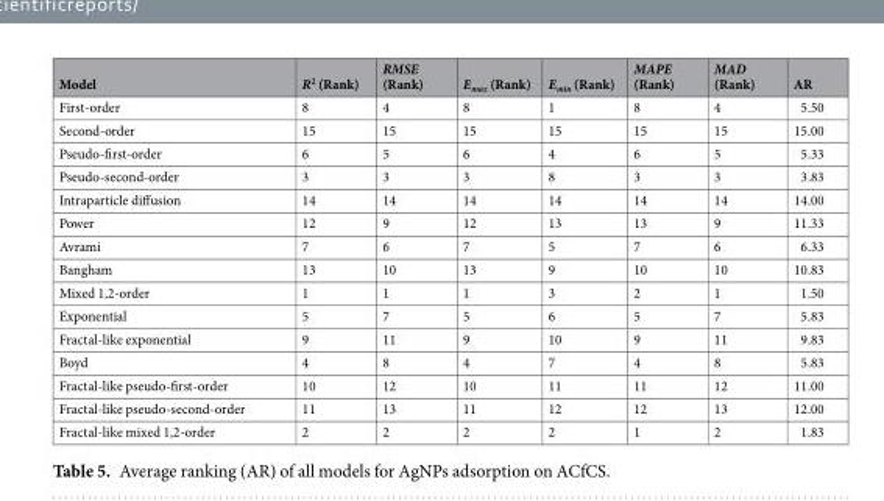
<table><thead><tr><td>Model</td><td>R<sup>2</sup> (Rank)</td><td>RMSE (Rank)</td><td>E<sub>max</sub> (Rank)</td><td>E<sub>min</sub> (Rank)</td><td>MAPE (Rank)</td><td>MAD (Rank)</td><td>AR</td></tr></thead><tbody><tr><td>First-order</td><td>8</td><td>4</td><td>8</td><td>1</td><td>8</td><td>4</td><td>5.50</td></tr><tr><td>Second-order</td><td>15</td><td>15</td><td>15</td><td>15</td><td>15</td><td>15</td><td>15.00</td></tr><tr><td>Pseudo-first-order</td><td>6</td><td>5</td><td>6</td><td>4</td><td>6</td><td>5</td><td>5.33</td></tr><tr><td>Pseudo-second-order</td><td>3</td><td>3</td><td>3</td><td>8</td><td>3</td><td>3</td><td>3.83</td></tr><tr><td>Intraparticle diffusion</td><td>14</td><td>14</td><td>14</td><td>14</td><td>14</td><td>14</td><td>14.00</td></tr><tr><td>Power</td><td>12</td><td>9</td><td>12</td><td>13</td><td>13</td><td>9</td><td>11.33</td></tr><tr><td>Avrami</td><td>7</td><td>6</td><td>7</td><td>5</td><td>7</td><td>6</td><td>6.33</td></tr><tr><td>Bangham</td><td>13</td><td>10</td><td>13</td><td>9</td><td>10</td><td>10</td><td>10.83</td></tr><tr><td>Mixed 1,2-order</td><td>1</td><td>1</td><td>1</td><td>3</td><td>2</td><td>1</td><td>1.50</td></tr><tr><td>Exponential</td><td>5</td><td>7</td><td>5</td><td>6</td><td>5</td><td>7</td><td>5.83</td></tr><tr><td>Fractal-like exponential</td><td>9</td><td>11</td><td>9</td><td>10</td><td>9</td><td>11</td><td>9.83</td></tr><tr><td>Boyd</td><td>4</td><td>8</td><td>4</td><td>7</td><td>4</td><td>8</td><td>5.83</td></tr><tr><td>Fractal-like pseudo-first-order</td><td>10</td><td>12</td><td>10</td><td>11</td><td>11</td><td>12</td><td>11.00</td></tr><tr><td>Fractal-like pseudo-second-order</td><td>11</td><td>13</td><td>11</td><td>12</td><td>12</td><td>13</td><td>12.00</td></tr><tr><td>Fractal-like mixed 1,2-order</td><td>2</td><td>2</td><td>2</td><td>2</td><td>1</td><td>2</td><td>1.83</td></tr></tbody></table>